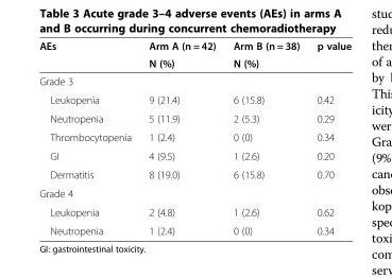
<table><thead><tr><td rowspan="2">AEs</td><td rowspan="2">Arm A (n = 42) N (%)</td><td rowspan="2">Arm B (n = 38) N (%)</td><td rowspan="2">p value</td></tr><tr></tr></thead><tbody><tr><td colspan="4">Grade 3</td></tr><tr><td>Leukopenia</td><td>9 (21.4)</td><td>6 (15.8)</td><td>0.42</td></tr><tr><td>Neutropenia</td><td>5 (11.9)</td><td>2 (5.3)</td><td>0.29</td></tr><tr><td>Thrombocytopenia</td><td>1 (2.4)</td><td>0 (0)</td><td>0.34</td></tr><tr><td>GI</td><td>4 (9.5)</td><td>1 (2.6)</td><td>0.20</td></tr><tr><td>Dermatitis</td><td>8 (19.0)</td><td>6 (15.8)</td><td>0.70</td></tr><tr><td colspan="4">Grade 4</td></tr><tr><td>Leukopenia</td><td>2 (4.8)</td><td>1 (2.6)</td><td>0.62</td></tr><tr><td>Neutropenia</td><td>1 (2.4)</td><td>0 (0)</td><td>0.34</td></tr></tbody></table>